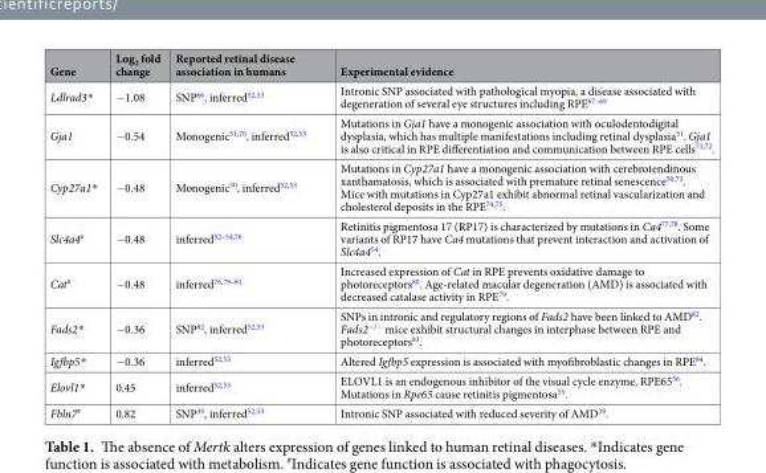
<table><thead><tr><td>Gene</td><td>Log<sub>2</sub> fold change</td><td>Reported retinal disease association in humans</td><td>Experimental evidence</td></tr></thead><tbody><tr><td>Ldlrad3*</td><td>−1.08</td><td>SNP<sup>66</sup>, inferred<sup>52,53</sup></td><td>Intronic SNP associated with pathological myopia, a disease associated with degeneration of several eye structures including RPE<sup>67–69</sup></td></tr><tr><td>Gja1</td><td>−0.54</td><td>Monogenic<sup>51,70</sup>, inferred<sup>52,53</sup></td><td>Mutations in Gja1 have a monogenic association with oculodentodigital dysplasia, which has multiple manifestations including retinal dysplasia<sup>51</sup>. Gja1 is also critical in RPE differentiation and communication between RPE cells<sup>71,72</sup>.</td></tr><tr><td>Cyp27a1*</td><td>−0.48</td><td>Monogenic<sup>50</sup>, inferred<sup>52,53</sup></td><td>Mutations in Cyp27a1 have a monogenic association with cerebrotendinous xanthamatosis, which is associated with premature retinal senescence<sup>50,73</sup>. Mice with mutations in Cyp27a1 exhibit abnormal retinal vascularization and cholesterol deposits in the RPE<sup>74,75</sup>.</td></tr><tr><td>Slc4a4<sup>#</sup></td><td>−0.48</td><td>inferred<sup>52–54,76</sup></td><td>Retinitis pigmentosa 17 (RP17) is characterized by mutations in Ca4<sup>77,78</sup>. Some variants of RP17 have Ca4 mutations that prevent interaction and activation of Slc4a4<sup>54</sup>.</td></tr><tr><td>Cat<sup>#</sup></td><td>−0.48</td><td>inferred<sup>76,79–81</sup></td><td>Increased expression of Cat in RPE prevents oxidative damage to photoreceptors<sup>80</sup>. Age-related macular degeneration (AMD) is associated with decreased catalase activity in RPE<sup>79</sup>.</td></tr><tr><td>Fads2*</td><td>−0.36</td><td>SNP<sup>82</sup>, inferred<sup>52,53</sup></td><td>SNPs in intronic and regulatory regions of Fads2 have been linked to AMD<sup>82</sup>. Fads2<sup>−/−</sup> mice exhibit structural changes in interphase between RPE and photoreceptors<sup>83</sup>.</td></tr><tr><td>Igfbp5*</td><td>−0.36</td><td>inferred<sup>52,53</sup></td><td>Altered Igfbp5 expression is associated with myofibroblastic changes in RPE<sup>84</sup>.</td></tr><tr><td>Elovl1*</td><td>0.45</td><td>inferred<sup>52,53</sup></td><td>ELOVL1 is an endogenous inhibitor of the visual cycle enzyme, RPE65<sup>56</sup>. Mutations in Rpe65 cause retinitis pigmentosa<sup>55</sup>.</td></tr><tr><td>Fbln7<sup>#</sup></td><td>0.82</td><td>SNP<sup>39</sup>, inferred<sup>52,53</sup></td><td>Intronic SNP associated with reduced severity of AMD<sup>39</sup>.</td></tr></tbody></table>